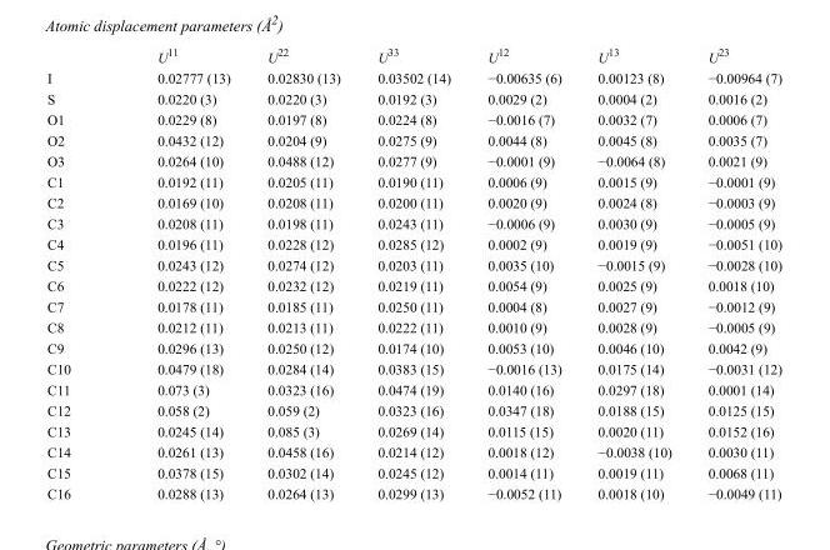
<table><thead><tr><td></td><td>U<sup>11</sup></td><td>U<sup>22</sup></td><td>U<sup>33</sup></td><td>U<sup>12</sup></td><td>U<sup>13</sup></td><td>U<sup>23</sup></td></tr></thead><tbody><tr><td>I</td><td>0.02777 (13)</td><td>0.02830 (13)</td><td>0.03502 (14)</td><td>−0.00635 (6)</td><td>0.00123 (8)</td><td>−0.00964 (7)</td></tr><tr><td>S</td><td>0.0220 (3)</td><td>0.0220 (3)</td><td>0.0192 (3)</td><td>0.0029 (2)</td><td>0.0004 (2)</td><td>0.0016 (2)</td></tr><tr><td>O1</td><td>0.0229 (8)</td><td>0.0197 (8)</td><td>0.0224 (8)</td><td>−0.0016 (7)</td><td>0.0032 (7)</td><td>0.0006 (7)</td></tr><tr><td>O2</td><td>0.0432 (12)</td><td>0.0204 (9)</td><td>0.0275 (9)</td><td>0.0044 (8)</td><td>0.0045 (8)</td><td>0.0035 (7)</td></tr><tr><td>O3</td><td>0.0264 (10)</td><td>0.0488 (12)</td><td>0.0277 (9)</td><td>−0.0001 (9)</td><td>−0.0064 (8)</td><td>0.0021 (9)</td></tr><tr><td>C1</td><td>0.0192 (11)</td><td>0.0205 (11)</td><td>0.0190 (11)</td><td>0.0006 (9)</td><td>0.0015 (9)</td><td>−0.0001 (9)</td></tr><tr><td>C2</td><td>0.0169 (10)</td><td>0.0208 (11)</td><td>0.0200 (11)</td><td>0.0020 (9)</td><td>0.0024 (8)</td><td>−0.0003 (9)</td></tr><tr><td>C3</td><td>0.0208 (11)</td><td>0.0198 (11)</td><td>0.0243 (11)</td><td>−0.0006 (9)</td><td>0.0030 (9)</td><td>−0.0005 (9)</td></tr><tr><td>C4</td><td>0.0196 (11)</td><td>0.0228 (12)</td><td>0.0285 (12)</td><td>0.0002 (9)</td><td>0.0019 (9)</td><td>−0.0051 (10)</td></tr><tr><td>C5</td><td>0.0243 (12)</td><td>0.0274 (12)</td><td>0.0203 (11)</td><td>0.0035 (10)</td><td>−0.0015 (9)</td><td>−0.0028 (10)</td></tr><tr><td>C6</td><td>0.0222 (12)</td><td>0.0232 (12)</td><td>0.0219 (11)</td><td>0.0054 (9)</td><td>0.0025 (9)</td><td>0.0018 (10)</td></tr><tr><td>C7</td><td>0.0178 (11)</td><td>0.0185 (11)</td><td>0.0250 (11)</td><td>0.0004 (8)</td><td>0.0027 (9)</td><td>−0.0012 (9)</td></tr><tr><td>C8</td><td>0.0212 (11)</td><td>0.0213 (11)</td><td>0.0222 (11)</td><td>0.0010 (9)</td><td>0.0028 (9)</td><td>−0.0005 (9)</td></tr><tr><td>C9</td><td>0.0296 (13)</td><td>0.0250 (12)</td><td>0.0174 (10)</td><td>0.0053 (10)</td><td>0.0046 (10)</td><td>0.0042 (9)</td></tr><tr><td>C10</td><td>0.0479 (18)</td><td>0.0284 (14)</td><td>0.0383 (15)</td><td>−0.0016 (13)</td><td>0.0175 (14)</td><td>−0.0031 (12)</td></tr><tr><td>C11</td><td>0.073 (3)</td><td>0.0323 (16)</td><td>0.0474 (19)</td><td>0.0140 (16)</td><td>0.0297 (18)</td><td>0.0001 (14)</td></tr><tr><td>C12</td><td>0.058 (2)</td><td>0.059 (2)</td><td>0.0323 (16)</td><td>0.0347 (18)</td><td>0.0188 (15)</td><td>0.0125 (15)</td></tr><tr><td>C13</td><td>0.0245 (14)</td><td>0.085 (3)</td><td>0.0269 (14)</td><td>0.0115 (15)</td><td>0.0020 (11)</td><td>0.0152 (16)</td></tr><tr><td>C14</td><td>0.0261 (13)</td><td>0.0458 (16)</td><td>0.0214 (12)</td><td>0.0018 (12)</td><td>−0.0038 (10)</td><td>0.0030 (11)</td></tr><tr><td>C15</td><td>0.0378 (15)</td><td>0.0302 (14)</td><td>0.0245 (12)</td><td>0.0014 (11)</td><td>0.0019 (11)</td><td>0.0068 (11)</td></tr><tr><td>C16</td><td>0.0288 (13)</td><td>0.0264 (13)</td><td>0.0299 (13)</td><td>−0.0052 (11)</td><td>0.0018 (10)</td><td>−0.0049 (11)</td></tr></tbody></table>